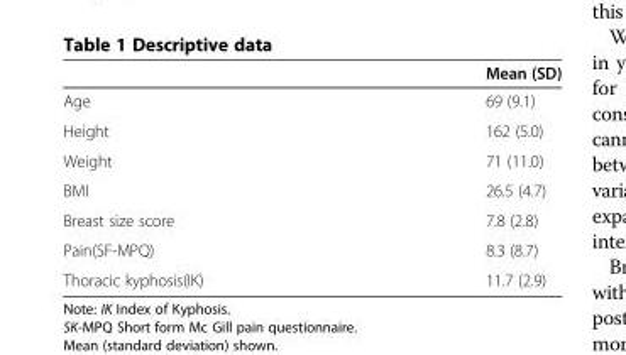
<table><thead><tr><td></td><td>Mean (SD)</td></tr></thead><tbody><tr><td>Age</td><td>69 (9.1)</td></tr><tr><td>Height</td><td>162 (5.0)</td></tr><tr><td>Weight</td><td>71 (11.0)</td></tr><tr><td>BMI</td><td>26.5 (4.7)</td></tr><tr><td>Breast size score</td><td>7.8 (2.8)</td></tr><tr><td>Pain(SF-MPQ)</td><td>8.3 (8.7)</td></tr><tr><td>Thoracic kyphosis(IK)</td><td>11.7 (2.9)</td></tr></tbody></table>